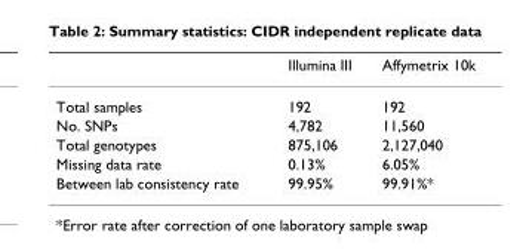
<table><thead><tr><td></td><td>Illumina III</td><td>Affymetrix 10k</td></tr></thead><tbody><tr><td>Total samples</td><td>192</td><td>192</td></tr><tr><td>No. SNPs</td><td>4,782</td><td>11,560</td></tr><tr><td>Total genotypes</td><td>875,106</td><td>2,127,040</td></tr><tr><td>Missing data rate</td><td>0.13%</td><td>6.05%</td></tr><tr><td>Between lab consistency rate</td><td>99.95%</td><td>99.91%*</td></tr></tbody></table>